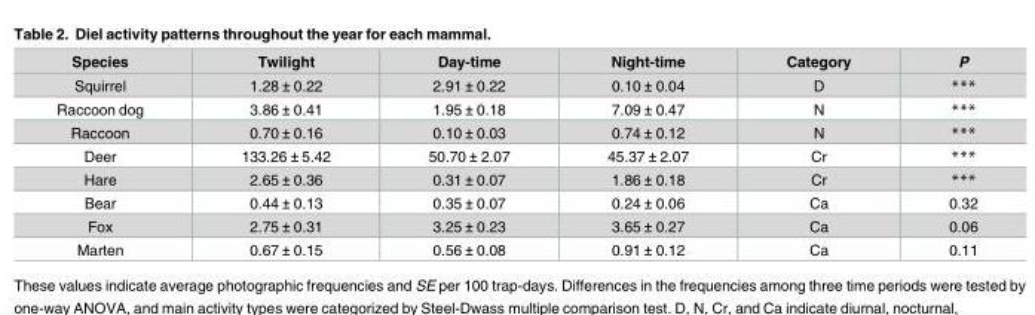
<table><thead><tr><td>Species</td><td>Twilight</td><td>Day-time</td><td>Night-time</td><td>Category</td><td>P</td></tr></thead><tbody><tr><td>Squirrel</td><td>1.28 ± 0.22</td><td>2.91 ± 0.22</td><td>0.10 ± 0.04</td><td>D</td><td>***</td></tr><tr><td>Raccoon dog</td><td>3.86 ± 0.41</td><td>1.95 ± 0.18</td><td>7.09 ± 0.47</td><td>N</td><td>***</td></tr><tr><td>Raccoon</td><td>0.70 ± 0.16</td><td>0.10 ± 0.03</td><td>0.74 ± 0.12</td><td>N</td><td>***</td></tr><tr><td>Deer</td><td>133.26 ± 5.42</td><td>50.70 ± 2.07</td><td>45.37 ± 2.07</td><td>Cr</td><td>***</td></tr><tr><td>Hare</td><td>2.65 ± 0.36</td><td>0.31 ± 0.07</td><td>1.86 ± 0.18</td><td>Cr</td><td>***</td></tr><tr><td>Bear</td><td>0.44 ± 0.13</td><td>0.35 ± 0.07</td><td>0.24 ± 0.06</td><td>Ca</td><td>0.32</td></tr><tr><td>Fox</td><td>2.75 ± 0.31</td><td>3.25 ± 0.23</td><td>3.65 ± 0.27</td><td>Ca</td><td>0.06</td></tr><tr><td>Marten</td><td>0.67 ± 0.15</td><td>0.56 ± 0.08</td><td>0.91 ± 0.12</td><td>Ca</td><td>0.11</td></tr></tbody></table>